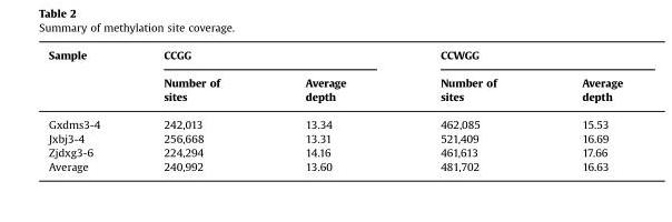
<table><thead><tr><td rowspan="2">Sample</td><td colspan="2">CCGG</td><td colspan="2">CCWGG</td></tr><tr><td>Number of sites</td><td>Average depth</td><td>Number of sites</td><td>Average depth</td></tr></thead><tbody><tr><td>Gxdms3-4</td><td>242,013</td><td>13.34</td><td>462,085</td><td>15.53</td></tr><tr><td>Jxbj3-4</td><td>256,668</td><td>13.31</td><td>521,409</td><td>16.69</td></tr><tr><td>Zjdxg3-6</td><td>224,294</td><td>14.16</td><td>461,613</td><td>17.66</td></tr><tr><td>Average</td><td>240,992</td><td>13.60</td><td>481,702</td><td>16.63</td></tr></tbody></table>